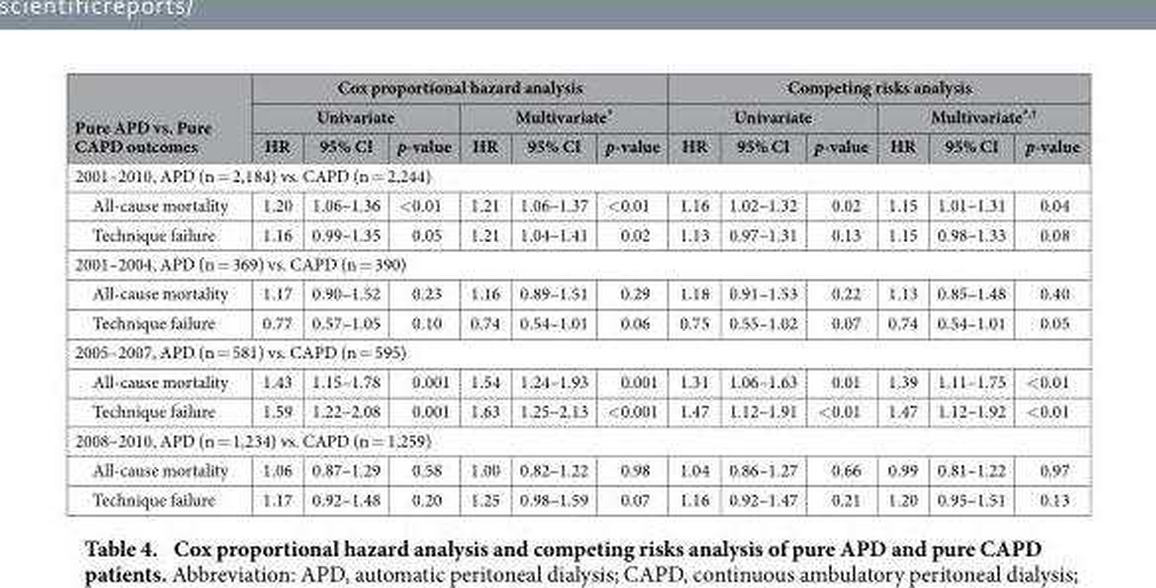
<table><thead><tr><td rowspan="3">Pure APD vs. Pure CAPD outcomes</td><td colspan="6">Cox proportional hazard analysis</td><td colspan="6">Competing risks analysis</td></tr><tr><td colspan="3">Univariate</td><td colspan="3">Multivariate*</td><td colspan="3">Univariate</td><td colspan="3">Multivariate*,†</td></tr><tr><td>HR</td><td>95% CI</td><td>p-value</td><td>HR</td><td>95% CI</td><td>p-value</td><td>HR</td><td>95% CI</td><td>p-value</td><td>HR</td><td>95% CI</td><td>p-value</td></tr></thead><tbody><tr><td colspan="13">2001–2010, APD (n = 2,184) vs. CAPD (n = 2,244)</td></tr><tr><td>All-cause mortality</td><td>1.20</td><td>1.06–1.36</td><td>&lt; 0.01</td><td>1.21</td><td>1.06–1.37</td><td>&lt; 0.01</td><td>1.16</td><td>1.02–1.32</td><td>0.02</td><td>1.15</td><td>1.01–1.31</td><td>0.04</td></tr><tr><td>Technique failure</td><td>1.16</td><td>0.99–1.35</td><td>0.05</td><td>1.21</td><td>1.04–1.41</td><td>0.02</td><td>1.13</td><td>0.97–1.31</td><td>0.13</td><td>1.15</td><td>0.98–1.33</td><td>0.08</td></tr><tr><td colspan="13">2001–2004, APD (n = 369) vs. CAPD (n = 390)</td></tr><tr><td>All-cause mortality</td><td>1.17</td><td>0.90–1.52</td><td>0.23</td><td>1.16</td><td>0.89–1.51</td><td>0.29</td><td>1.18</td><td>0.91–1.53</td><td>0.22</td><td>1.13</td><td>0.85–1.48</td><td>0.40</td></tr><tr><td>Technique failure</td><td>0.77</td><td>0.57–1.05</td><td>0.10</td><td>0.74</td><td>0.54–1.01</td><td>0.06</td><td>0.75</td><td>0.55–1.02</td><td>0.07</td><td>0.74</td><td>0.54–1.01</td><td>0.05</td></tr><tr><td colspan="13">2005–2007, APD (n = 581) vs. CAPD (n = 595)</td></tr><tr><td>All-cause mortality</td><td>1.43</td><td>1.15–1.78</td><td>0.001</td><td>1.54</td><td>1.24–1.93</td><td>0.001</td><td>1.31</td><td>1.06–1.63</td><td>0.01</td><td>1.39</td><td>1.11–1.75</td><td>&lt; 0.01</td></tr><tr><td>Technique failure</td><td>1.59</td><td>1.22–2.08</td><td>0.001</td><td>1.63</td><td>1.25–2.13</td><td>&lt; 0.001</td><td>1.47</td><td>1.12–1.91</td><td>&lt; 0.01</td><td>1.47</td><td>1.12–1.92</td><td>&lt; 0.01</td></tr><tr><td colspan="13">2008–2010, APD (n = 1,234) vs. CAPD (n = 1,259)</td></tr><tr><td>All-cause mortality</td><td>1.06</td><td>0.87–1.29</td><td>0.58</td><td>1.00</td><td>0.82–1.22</td><td>0.98</td><td>1.04</td><td>0.86–1.27</td><td>0.66</td><td>0.99</td><td>0.81–1.22</td><td>0.97</td></tr><tr><td>Technique failure</td><td>1.17</td><td>0.92–1.48</td><td>0.20</td><td>1.25</td><td>0.98–1.59</td><td>0.07</td><td>1.16</td><td>0.92–1.47</td><td>0.21</td><td>1.20</td><td>0.95–1.51</td><td>0.13</td></tr></tbody></table>